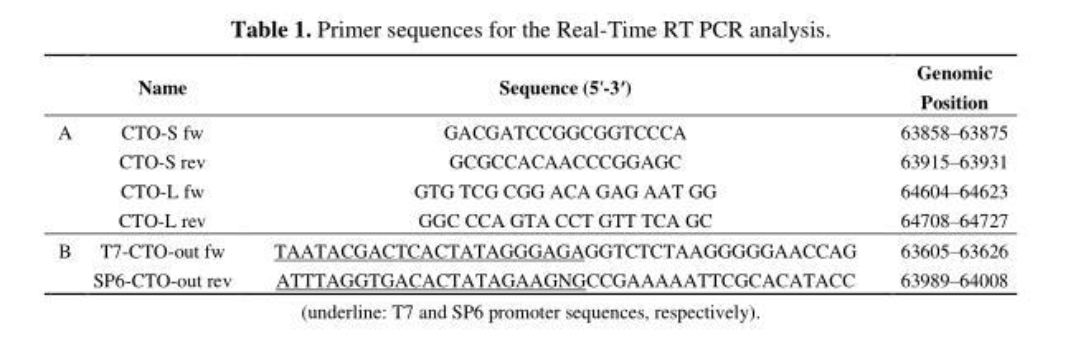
<table><thead><tr><td></td><td>Name</td><td>Sequence (5′-3′)</td><td>Genomic Position</td></tr></thead><tbody><tr><td rowspan="4">A</td><td>CTO-S fw</td><td>GACGATCCGGCGGTCCCA</td><td>63858–63875</td></tr><tr><td>CTO-S rev</td><td>GCGCCACAACCCGGAGC</td><td>63915–63931</td></tr><tr><td>CTO-L fw</td><td>GTG TCG CGG ACA GAG AAT GG</td><td>64604–64623</td></tr><tr><td>CTO-L rev</td><td>GGC CCA GTA CCT GTT TCA GC</td><td>64708–64727</td></tr><tr><td rowspan="2">B</td><td>T7-CTO-out fw</td><td>TAATACGACTCACTATAGGGAGAGGTCTCTAAGGGGGAACCAG</td><td>63605–63626</td></tr><tr><td>SP6-CTO-out rev</td><td>ATTTAGGTGACACTATAGAAGNGCCGAAAAATTCGCACATACC</td><td>63989–64008</td></tr></tbody></table>